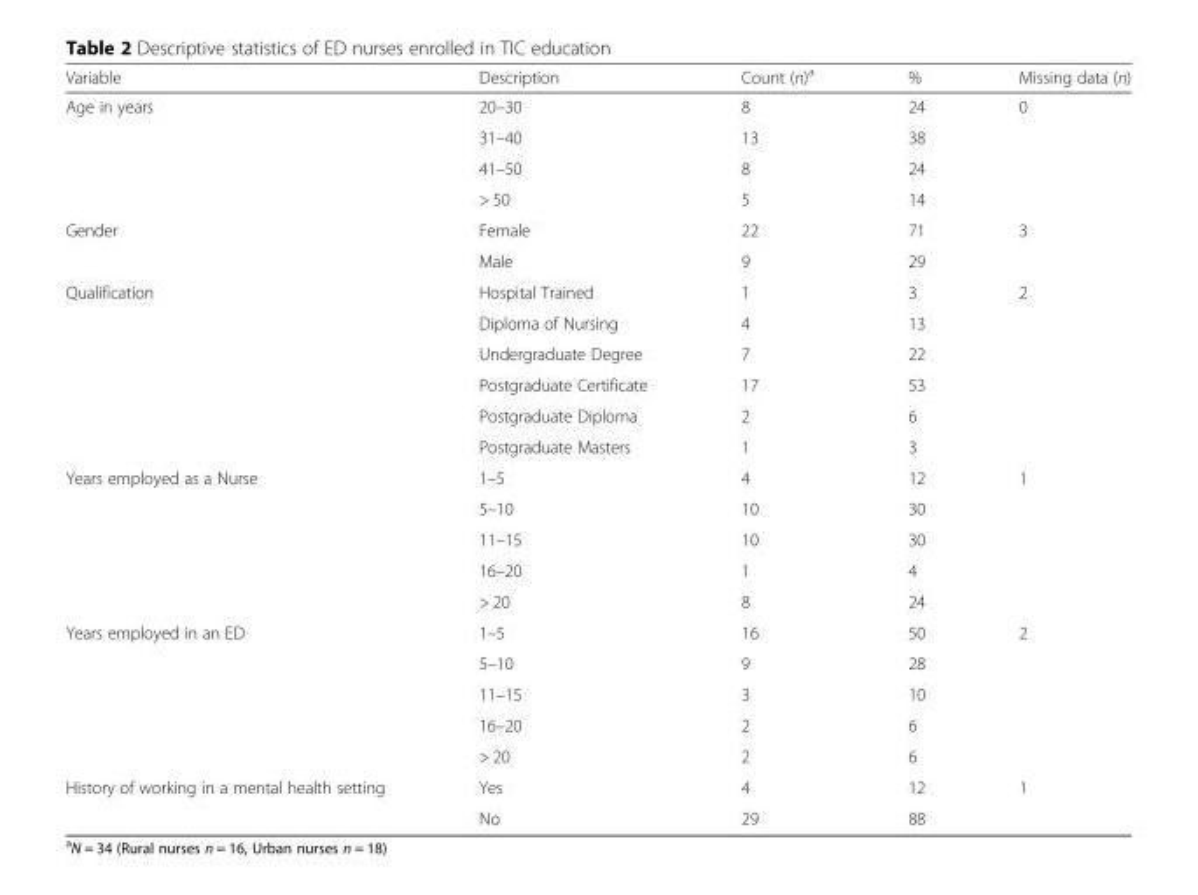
<table><thead><tr><td>Variable</td><td>Description</td><td>Count (n)<sup>a</sup></td><td>%</td><td>Missing data (n)</td></tr></thead><tbody><tr><td rowspan="4">Age in years</td><td>20–30</td><td>8</td><td>24</td><td>0</td></tr><tr><td>31–40</td><td>13</td><td>38</td><td></td></tr><tr><td>41–50</td><td>8</td><td>24</td><td></td></tr><tr><td>&gt; 50</td><td>5</td><td>14</td><td></td></tr><tr><td rowspan="2">Gender</td><td>Female</td><td>22</td><td>71</td><td>3</td></tr><tr><td>Male</td><td>9</td><td>29</td><td></td></tr><tr><td rowspan="6">Qualification</td><td>Hospital Trained</td><td>1</td><td>3</td><td>2</td></tr><tr><td>Diploma of Nursing</td><td>4</td><td>13</td><td></td></tr><tr><td>Undergraduate Degree</td><td>7</td><td>22</td><td></td></tr><tr><td>Postgraduate Certificate</td><td>17</td><td>53</td><td></td></tr><tr><td>Postgraduate Diploma</td><td>2</td><td>6</td><td></td></tr><tr><td>Postgraduate Masters</td><td>1</td><td>3</td><td></td></tr><tr><td rowspan="5">Years employed as a Nurse</td><td>1–5</td><td>4</td><td>12</td><td>1</td></tr><tr><td>5–10</td><td>10</td><td>30</td><td></td></tr><tr><td>11–15</td><td>10</td><td>30</td><td></td></tr><tr><td>16–20</td><td>1</td><td>4</td><td></td></tr><tr><td>&gt; 20</td><td>8</td><td>24</td><td></td></tr><tr><td rowspan="5">Years employed in an ED</td><td>1–5</td><td>16</td><td>50</td><td>2</td></tr><tr><td>5–10</td><td>9</td><td>28</td><td></td></tr><tr><td>11–15</td><td>3</td><td>10</td><td></td></tr><tr><td>16–20</td><td>2</td><td>6</td><td></td></tr><tr><td>&gt; 20</td><td>2</td><td>6</td><td></td></tr><tr><td rowspan="2">History of working in a mental health setting</td><td>Yes</td><td>4</td><td>12</td><td>1</td></tr><tr><td>No</td><td>29</td><td>88</td><td></td></tr></tbody></table>